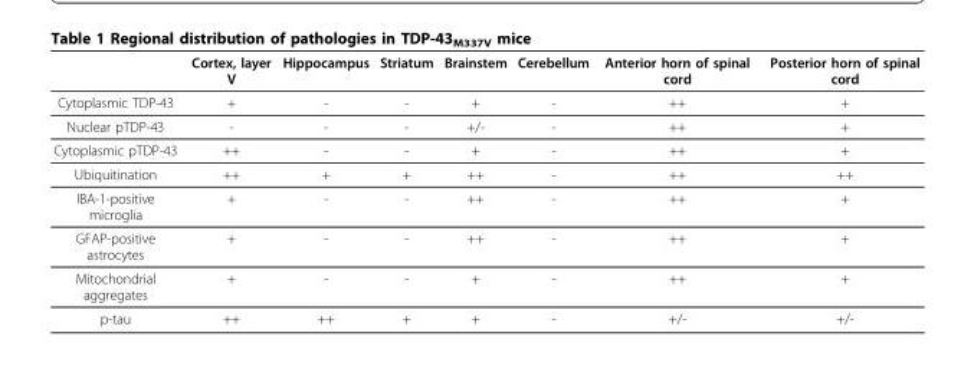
<table><thead><tr><td></td><td>Cortex, layer V</td><td>Hippocampus</td><td>Striatum</td><td>Brainstem</td><td>Cerebellum</td><td>Anterior horn of spinal cord</td><td>Posterior horn of spinal cord</td></tr></thead><tbody><tr><td>Cytoplasmic TDP-43</td><td>+</td><td>-</td><td>-</td><td>+</td><td>-</td><td>++</td><td>+</td></tr><tr><td>Nuclear pTDP-43</td><td>-</td><td>-</td><td>-</td><td>+/-</td><td>-</td><td>++</td><td>+</td></tr><tr><td>Cytoplasmic pTDP-43</td><td>++</td><td>-</td><td>-</td><td>+</td><td>-</td><td>++</td><td>+</td></tr><tr><td>Ubiquitination</td><td>++</td><td>+</td><td>+</td><td>++</td><td>-</td><td>++</td><td>++</td></tr><tr><td>IBA-1-positive microglia</td><td>+</td><td>-</td><td>-</td><td>++</td><td>-</td><td>++</td><td>+</td></tr><tr><td>GFAP-positive astrocytes</td><td>+</td><td>-</td><td>-</td><td>++</td><td>-</td><td>++</td><td>+</td></tr><tr><td>Mitochondrial aggregates</td><td>+</td><td>-</td><td>-</td><td>+</td><td>-</td><td>++</td><td>+</td></tr><tr><td>p-tau</td><td>++</td><td>++</td><td>+</td><td>+</td><td>-</td><td>+/-</td><td>+/-</td></tr></tbody></table>